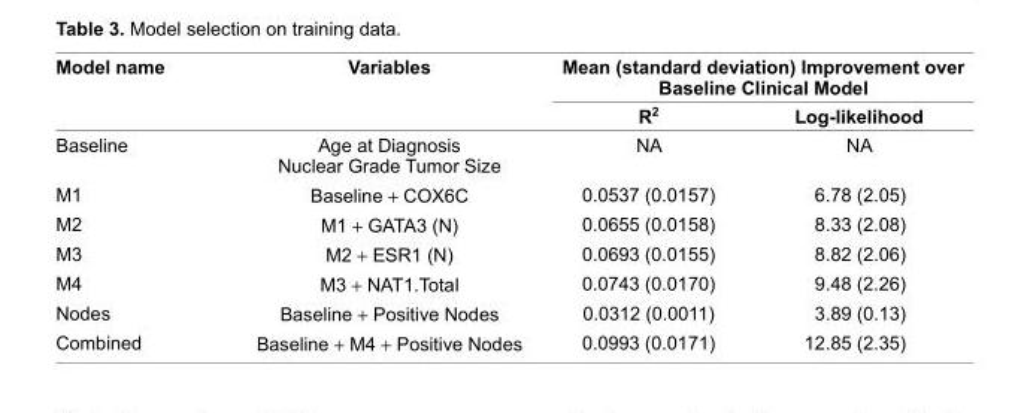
<table><thead><tr><td rowspan="2">Model name</td><td rowspan="2">Variables</td><td colspan="2">Mean (standard deviation) Improvement over Baseline Clinical Model</td></tr><tr><td>R<sup>2</sup></td><td>Log-likelihood</td></tr></thead><tbody><tr><td>Baseline</td><td>Age at Diagnosis Nuclear Grade Tumor Size</td><td>NA</td><td>NA</td></tr><tr><td>M1</td><td>Baseline + COX6C</td><td>0.0537 (0.0157)</td><td>6.78 (2.05)</td></tr><tr><td>M2</td><td>M1 + GATA3 (N)</td><td>0.0655 (0.0158)</td><td>8.33 (2.08)</td></tr><tr><td>M3</td><td>M2 + ESR1 (N)</td><td>0.0693 (0.0155)</td><td>8.82 (2.06)</td></tr><tr><td>M4</td><td>M3 + NAT1.Total</td><td>0.0743 (0.0170)</td><td>9.48 (2.26)</td></tr><tr><td>Nodes</td><td>Baseline + Positive Nodes</td><td>0.0312 (0.0011)</td><td>3.89 (0.13)</td></tr><tr><td>Combined</td><td>Baseline + M4 + Positive Nodes</td><td>0.0993 (0.0171)</td><td>12.85 (2.35)</td></tr></tbody></table>